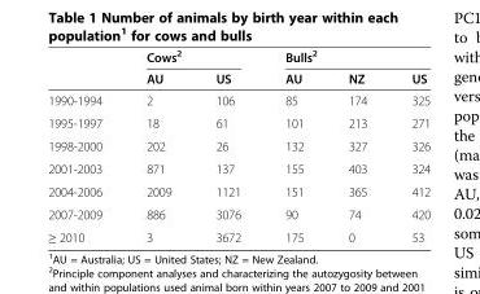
<table><thead><tr><td rowspan="2"></td><td colspan="2">Cows<sup>2</sup></td><td colspan="3">Bulls<sup>2</sup></td></tr><tr><td>AU</td><td>US</td><td>AU</td><td>NZ</td><td>US</td></tr></thead><tbody><tr><td>1990-1994</td><td>2</td><td>106</td><td>85</td><td>174</td><td>325</td></tr><tr><td>1995-1997</td><td>18</td><td>61</td><td>101</td><td>213</td><td>271</td></tr><tr><td>1998-2000</td><td>202</td><td>26</td><td>132</td><td>327</td><td>326</td></tr><tr><td>2001-2003</td><td>871</td><td>137</td><td>155</td><td>403</td><td>324</td></tr><tr><td>2004-2006</td><td>2009</td><td>1121</td><td>151</td><td>365</td><td>412</td></tr><tr><td>2007-2009</td><td>886</td><td>3076</td><td>90</td><td>74</td><td>420</td></tr><tr><td>≥ 2010</td><td>3</td><td>3672</td><td>175</td><td>0</td><td>53</td></tr></tbody></table>